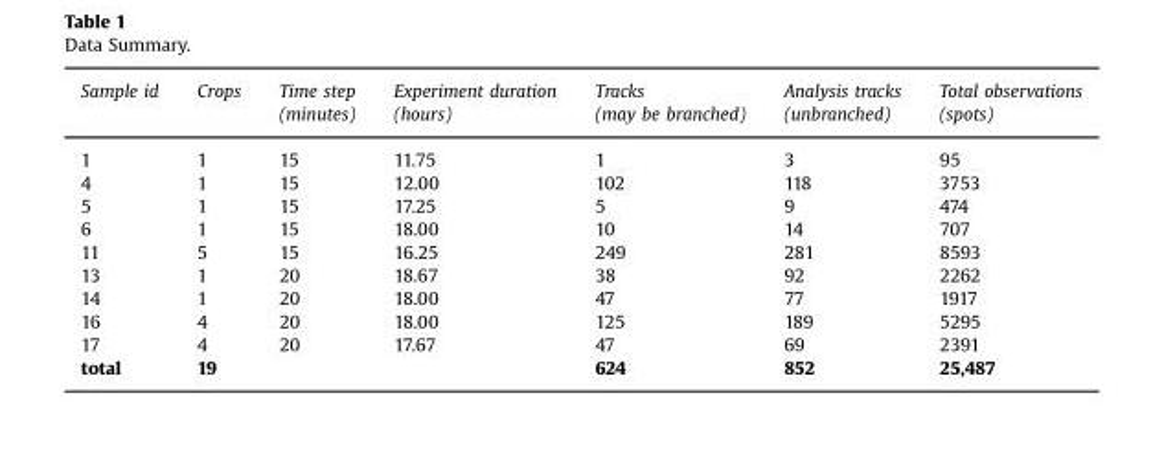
<table><thead><tr><td rowspan="2">Sample id</td><td rowspan="2">Crops</td><td rowspan="2">Time step (minutes)</td><td rowspan="2">Experiment duration (hours)</td><td rowspan="2">Tracks (may be branched)</td><td rowspan="2">Analysis tracks (unbranched)</td><td rowspan="2">Total observations (spots)</td></tr><tr></tr></thead><tbody><tr><td>1</td><td>1</td><td>15</td><td>11.75</td><td>1</td><td>3</td><td>95</td></tr><tr><td>4</td><td>1</td><td>15</td><td>12.00</td><td>102</td><td>118</td><td>3753</td></tr><tr><td>5</td><td>1</td><td>15</td><td>17.25</td><td>5</td><td>9</td><td>474</td></tr><tr><td>6</td><td>1</td><td>15</td><td>18.00</td><td>10</td><td>14</td><td>707</td></tr><tr><td>11</td><td>5</td><td>15</td><td>16.25</td><td>249</td><td>281</td><td>8593</td></tr><tr><td>13</td><td>1</td><td>20</td><td>18.67</td><td>38</td><td>92</td><td>2262</td></tr><tr><td>14</td><td>1</td><td>20</td><td>18.00</td><td>47</td><td>77</td><td>1917</td></tr><tr><td>16</td><td>4</td><td>20</td><td>18.00</td><td>125</td><td>189</td><td>5295</td></tr><tr><td>17</td><td>4</td><td>20</td><td>17.67</td><td>47</td><td>69</td><td>2391</td></tr><tr><td>total</td><td>19</td><td></td><td></td><td>624</td><td>852</td><td>25,487</td></tr></tbody></table>